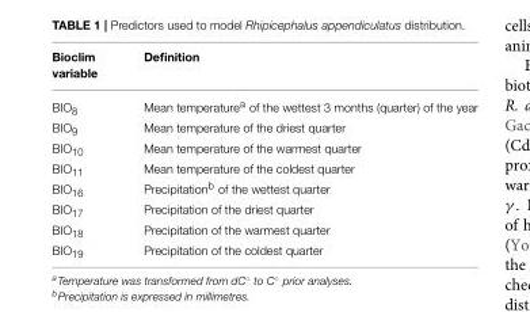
<table><thead><tr><td>Bioclim variable</td><td>Definition</td></tr></thead><tbody><tr><td>BIO<sub>8</sub></td><td>Mean temperature<sup>a</sup> of the wettest 3 months (quarter) of the year</td></tr><tr><td>BIO<sub>9</sub></td><td>Mean temperature of the driest quarter</td></tr><tr><td>BIO<sub>10</sub></td><td>Mean temperature of the warmest quarter</td></tr><tr><td>BIO<sub>11</sub></td><td>Mean temperature of the coldest quarter</td></tr><tr><td>BIO<sub>16</sub></td><td>Precipitation<sup>b</sup> of the wettest quarter</td></tr><tr><td>BIO<sub>17</sub></td><td>Precipitation of the driest quarter</td></tr><tr><td>BIO<sub>18</sub></td><td>Precipitation of the warmest quarter</td></tr><tr><td>BIO<sub>19</sub></td><td>Precipitation of the coldest quarter</td></tr></tbody></table>